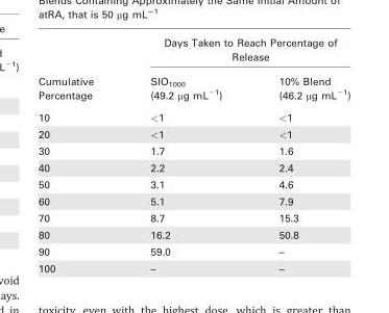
<table><thead><tr><td rowspan="2">Cumulative Percentage</td><td colspan="2">Days Taken to Reach Percentage of Release</td></tr><tr><td>SIO<sub>1000</sub> (49.2 µg mL<sup>−1</sup>)</td><td>10% Blend (46.2 µg mL<sup>−1</sup>)</td></tr></thead><tbody><tr><td>10</td><td>&lt;1</td><td>&lt;1</td></tr><tr><td>20</td><td>&lt;1</td><td>&lt;1</td></tr><tr><td>30</td><td>1.7</td><td>1.6</td></tr><tr><td>40</td><td>2.2</td><td>2.4</td></tr><tr><td>50</td><td>3.1</td><td>4.6</td></tr><tr><td>60</td><td>5.1</td><td>7.9</td></tr><tr><td>70</td><td>8.7</td><td>15.3</td></tr><tr><td>80</td><td>16.2</td><td>50.8</td></tr><tr><td>90</td><td>59.0</td><td>–</td></tr><tr><td>100</td><td>–</td><td>–</td></tr></tbody></table>